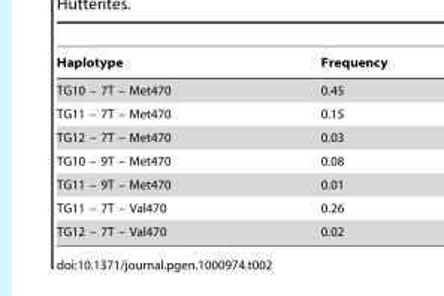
<table><thead><tr><td>Haplotype</td><td>Frequency</td></tr></thead><tbody><tr><td>TG10 – 7T – Met470</td><td>0.45</td></tr><tr><td>TG11 – 7T – Met470</td><td>0.15</td></tr><tr><td>TG12 – 7T – Met470</td><td>0.03</td></tr><tr><td>TG10 – 9T – Met470</td><td>0.08</td></tr><tr><td>TG11 – 9T – Met470</td><td>0.01</td></tr><tr><td>TG11 – 7T – Val470</td><td>0.26</td></tr><tr><td>TG12 – 7T – Val470</td><td>0.02</td></tr></tbody></table>